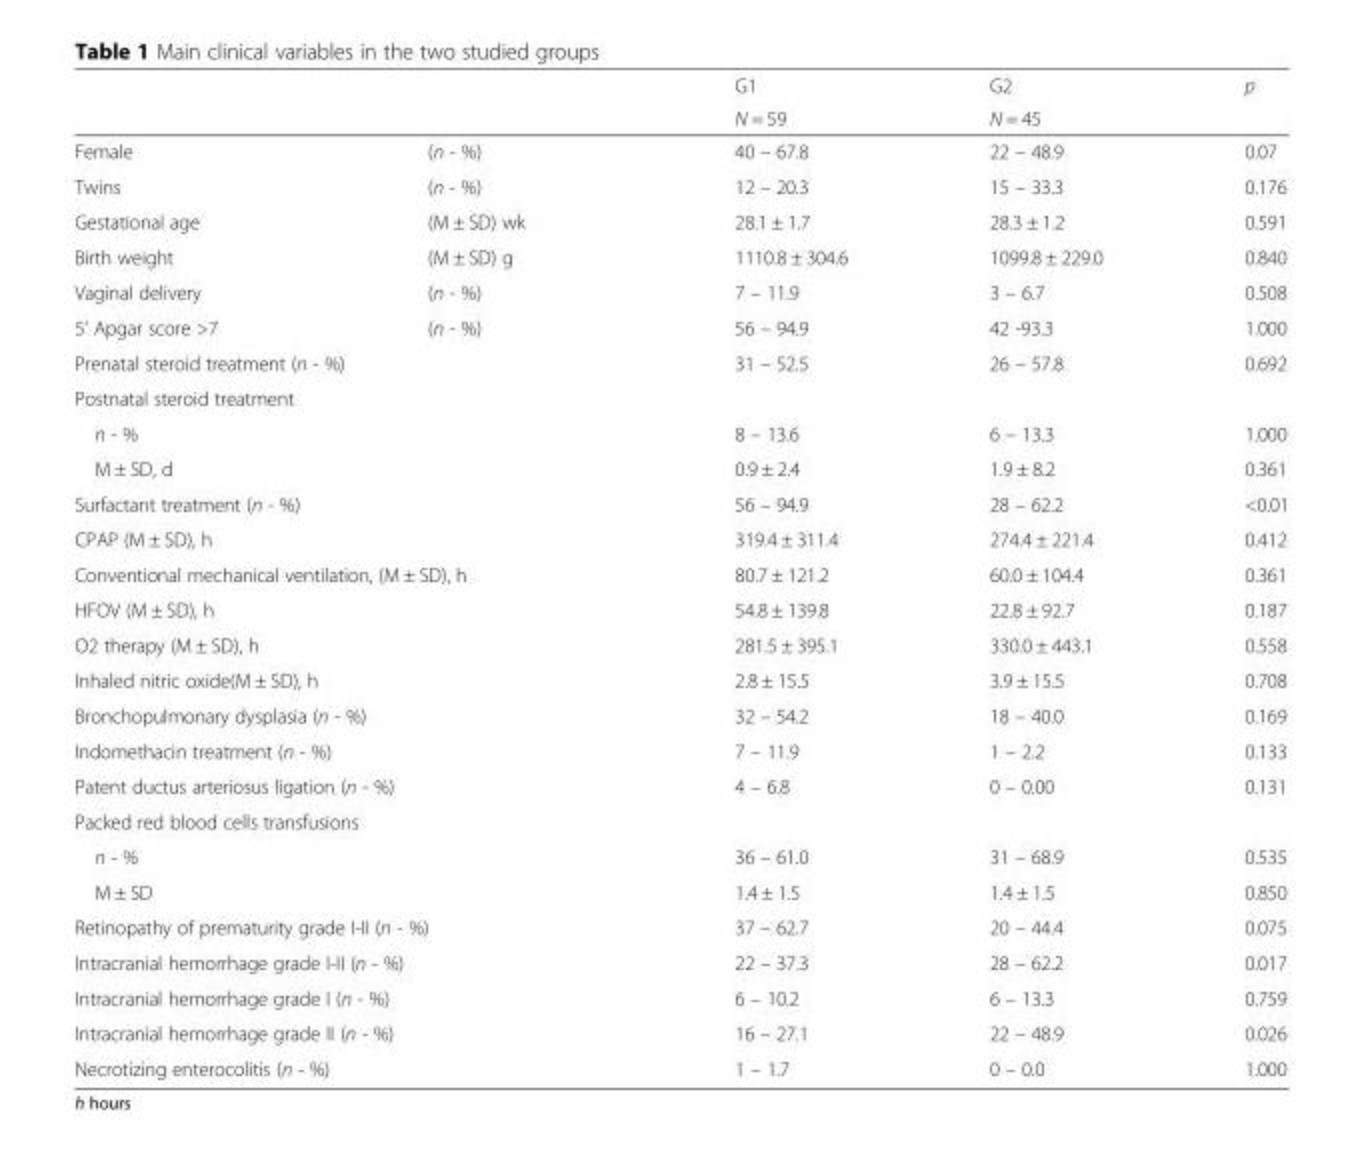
<table><thead><tr><td rowspan="2"></td><td rowspan="2"></td><td rowspan="2">G1 N = 59</td><td rowspan="2">G2 N = 45</td><td rowspan="2">p</td></tr><tr></tr></thead><tbody><tr><td>Female</td><td>(n - %)</td><td>40 – 67.8</td><td>22 – 48.9</td><td>0.07</td></tr><tr><td>Twins</td><td>(n - %)</td><td>12 – 20.3</td><td>15 – 33.3</td><td>0.176</td></tr><tr><td>Gestational age</td><td>(M ± SD) wk</td><td>28.1 ± 1.7</td><td>28.3 ± 1.2</td><td>0.591</td></tr><tr><td>Birth weight</td><td>(M ± SD) g</td><td>1110.8 ± 304.6</td><td>1099.8 ± 229.0</td><td>0.840</td></tr><tr><td>Vaginal delivery</td><td>(n - %)</td><td>7 – 11.9</td><td>3 – 6.7</td><td>0.508</td></tr><tr><td>5’ Apgar score &gt;7</td><td>(n - %)</td><td>56 – 94.9</td><td>42 -93.3</td><td>1.000</td></tr><tr><td colspan="2">Prenatal steroid treatment (n - %)</td><td>31 – 52.5</td><td>26 – 57.8</td><td>0.692</td></tr><tr><td colspan="5">Postnatal steroid treatment</td></tr><tr><td colspan="2">n - %</td><td>8 – 13.6</td><td>6 – 13.3</td><td>1.000</td></tr><tr><td colspan="2">M ± SD, d</td><td>0.9 ± 2.4</td><td>1.9 ± 8.2</td><td>0.361</td></tr><tr><td colspan="2">Surfactant treatment (n - %)</td><td>56 – 94.9</td><td>28 – 62.2</td><td>&lt;0.01</td></tr><tr><td colspan="2">CPAP (M ± SD), h</td><td>319.4 ± 311.4</td><td>274.4 ± 221.4</td><td>0.412</td></tr><tr><td colspan="2">Conventional mechanical ventilation, (M ± SD), h</td><td>80.7 ± 121.2</td><td>60.0 ± 104.4</td><td>0.361</td></tr><tr><td colspan="2">HFOV (M ± SD), h</td><td>54.8 ± 139.8</td><td>22.8 ± 92.7</td><td>0.187</td></tr><tr><td colspan="2">O2 therapy (M ± SD), h</td><td>281.5 ± 395.1</td><td>330.0 ± 443.1</td><td>0.558</td></tr><tr><td colspan="2">Inhaled nitric oxide(M ± SD), h</td><td>2.8 ± 15.5</td><td>3.9 ± 15.5</td><td>0.708</td></tr><tr><td colspan="2">Bronchopulmonary dysplasia (n - %)</td><td>32 – 54.2</td><td>18 – 40.0</td><td>0.169</td></tr><tr><td colspan="2">Indomethacin treatment (n - %)</td><td>7 – 11.9</td><td>1 – 2.2</td><td>0.133</td></tr><tr><td colspan="2">Patent ductus arteriosus ligation (n - %)</td><td>4 – 6.8</td><td>0 – 0.00</td><td>0.131</td></tr><tr><td colspan="5">Packed red blood cells transfusions</td></tr><tr><td colspan="2">n - %</td><td>36 – 61.0</td><td>31 – 68.9</td><td>0.535</td></tr><tr><td colspan="2">M ± SD</td><td>1.4 ± 1.5</td><td>1.4 ± 1.5</td><td>0.850</td></tr><tr><td colspan="2">Retinopathy of prematurity grade I-II (n - %)</td><td>37 – 62.7</td><td>20 – 44.4</td><td>0.075</td></tr><tr><td colspan="2">Intracranial hemorrhage grade I-II (n - %)</td><td>22 – 37.3</td><td>28 – 62.2</td><td>0.017</td></tr><tr><td colspan="2">Intracranial hemorrhage grade I (n - %)</td><td>6 – 10.2</td><td>6 – 13.3</td><td>0.759</td></tr><tr><td colspan="2">Intracranial hemorrhage grade II (n - %)</td><td>16 – 27.1</td><td>22 – 48.9</td><td>0.026</td></tr><tr><td colspan="2">Necrotizing enterocolitis (n - %)</td><td>1 – 1.7</td><td>0 – 0.0</td><td>1.000</td></tr></tbody></table>